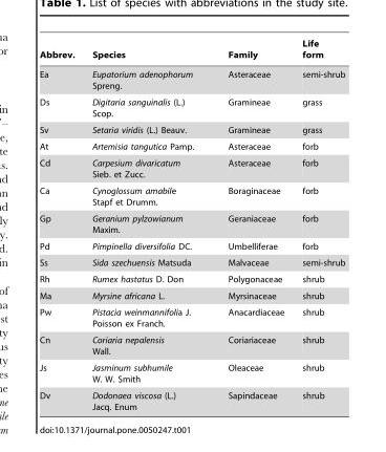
<table><thead><tr><td>Abbrev.</td><td>Species</td><td>Family</td><td>Life form</td></tr></thead><tbody><tr><td>Ea</td><td>Eupatorium adenophorum Spreng.</td><td>Asteraceae</td><td>semi-shrub</td></tr><tr><td>Ds</td><td>Digitaria sanguinalis (L.) Scop.</td><td>Gramineae</td><td>grass</td></tr><tr><td>Sv</td><td>Setaria viridis (L.) Beauv.</td><td>Gramineae</td><td>grass</td></tr><tr><td>At</td><td>Artemisia tangutica Pamp.</td><td>Asteraceae</td><td>forb</td></tr><tr><td>Cd</td><td>Carpesium divaricatum Sieb. et Zucc.</td><td>Asteraceae</td><td>forb</td></tr><tr><td>Ca</td><td>Cynoglossum amabile Stapf et Drumm.</td><td>Boraginaceae</td><td>forb</td></tr><tr><td>Gp</td><td>Geranium pylzowianum Maxim.</td><td>Geraniaceae</td><td>forb</td></tr><tr><td>Pd</td><td>Pimpinella diversifolia DC.</td><td>Umbelliferae</td><td>forb</td></tr><tr><td>Ss</td><td>Sida szechuensis Matsuda</td><td>Malvaceae</td><td>semi-shrub</td></tr><tr><td>Rh</td><td>Rumex hastatus D. Don</td><td>Polygonaceae</td><td>shrub</td></tr><tr><td>Ma</td><td>Myrsine africana L.</td><td>Myrsinaceae</td><td>shrub</td></tr><tr><td>Pw</td><td>Pistacia weinmannifolia J. Poisson ex Franch.</td><td>Anacardiaceae</td><td>shrub</td></tr><tr><td>Cn</td><td>Coriaria nepalensis Wall.</td><td>Coriariaceae</td><td>shrub</td></tr><tr><td>Js</td><td>Jasminum subhumile W. W. Smith</td><td>Oleaceae</td><td>shrub</td></tr><tr><td>Dv</td><td>Dodonaea viscosa (L.) Jacq. Enum</td><td>Sapindaceae</td><td>shrub</td></tr></tbody></table>